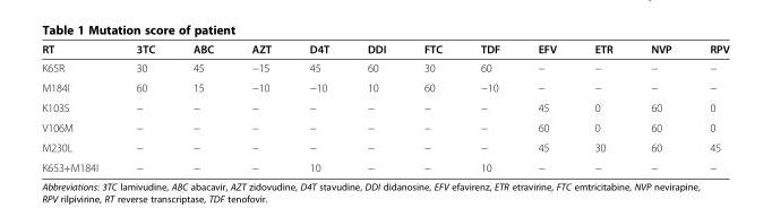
<table><thead><tr><td>RT</td><td>3TC</td><td>ABC</td><td>AZT</td><td>D4T</td><td>DDI</td><td>FTC</td><td>TDF</td><td>EFV</td><td>ETR</td><td>NVP</td><td>RPV</td></tr></thead><tbody><tr><td>K65R</td><td>30</td><td>45</td><td>−15</td><td>45</td><td>60</td><td>30</td><td>60</td><td>−</td><td>−</td><td>−</td><td>−</td></tr><tr><td>M184I</td><td>60</td><td>15</td><td>−10</td><td>−10</td><td>10</td><td>60</td><td>−10</td><td>−</td><td>−</td><td>−</td><td>−</td></tr><tr><td>K103S</td><td>−</td><td>−</td><td>−</td><td>−</td><td>−</td><td>−</td><td>−</td><td>45</td><td>0</td><td>60</td><td>0</td></tr><tr><td>V106M</td><td>−</td><td>−</td><td>−</td><td>−</td><td>−</td><td>−</td><td>−</td><td>60</td><td>0</td><td>60</td><td>0</td></tr><tr><td>M230L</td><td>−</td><td>−</td><td>−</td><td>−</td><td>−</td><td>−</td><td>−</td><td>45</td><td>30</td><td>60</td><td>45</td></tr><tr><td>K653+M184I</td><td>−</td><td>−</td><td>−</td><td>10</td><td>−</td><td>−</td><td>10</td><td>−</td><td>−</td><td>−</td><td>−</td></tr></tbody></table>